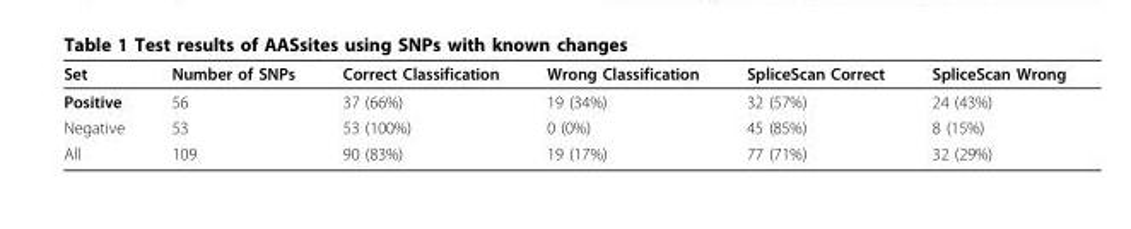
<table><thead><tr><td>Set</td><td>Number of SNPs</td><td>Correct Classification</td><td>Wrong Classification</td><td>SpliceScan Correct</td><td>SpliceScan Wrong</td></tr></thead><tbody><tr><td>Positive</td><td>56</td><td>37 (66%)</td><td>19 (34%)</td><td>32 (57%)</td><td>24 (43%)</td></tr><tr><td>Negative</td><td>53</td><td>53 (100%)</td><td>0 (0%)</td><td>45 (85%)</td><td>8 (15%)</td></tr><tr><td>All</td><td>109</td><td>90 (83%)</td><td>19 (17%)</td><td>77 (71%)</td><td>32 (29%)</td></tr></tbody></table>